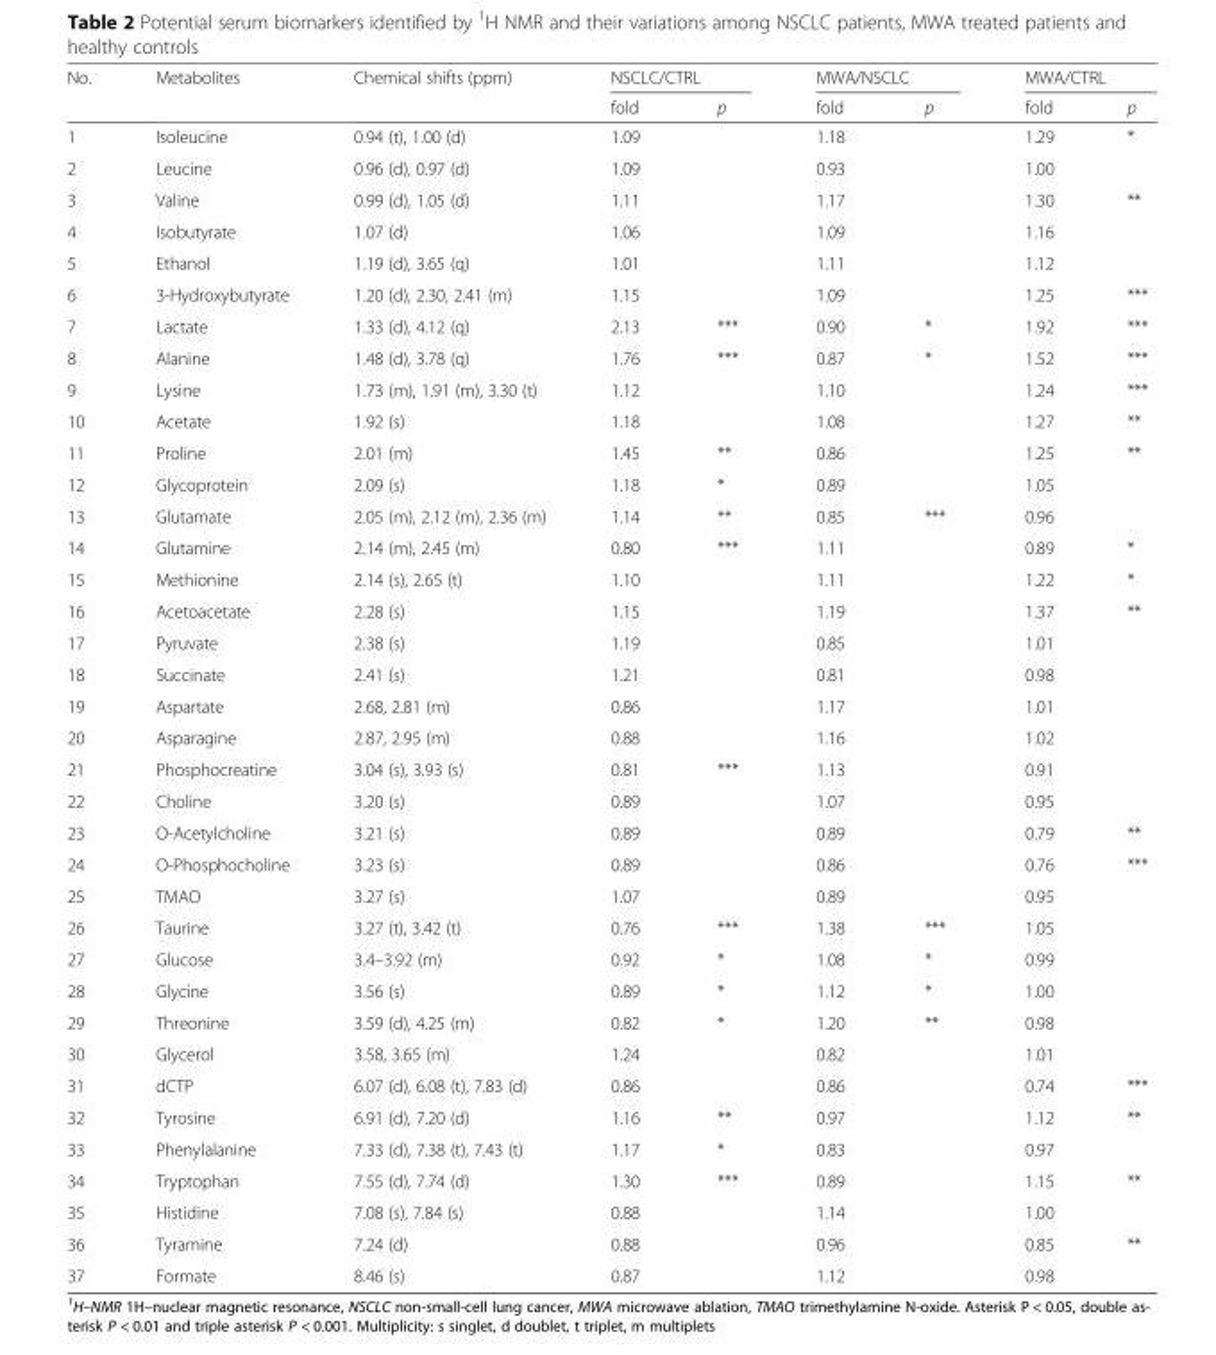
<table><thead><tr><td rowspan="2">No.</td><td rowspan="2">Metabolites</td><td rowspan="2">Chemical shifts (ppm)</td><td colspan="2">NSCLC/CTRL</td><td colspan="2">MWA/NSCLC</td><td colspan="2">MWA/CTRL</td></tr><tr><td>fold</td><td>p</td><td>fold</td><td>p</td><td>fold</td><td>p</td></tr></thead><tbody><tr><td>1</td><td>Isoleucine</td><td>0.94 (t), 1.00 (d)</td><td>1.09</td><td></td><td>1.18</td><td></td><td>1.29</td><td>*</td></tr><tr><td>2</td><td>Leucine</td><td>0.96 (d), 0.97 (d)</td><td>1.09</td><td></td><td>0.93</td><td></td><td>1.00</td><td></td></tr><tr><td>3</td><td>Valine</td><td>0.99 (d), 1.05 (d)</td><td>1.11</td><td></td><td>1.17</td><td></td><td>1.30</td><td>**</td></tr><tr><td>4</td><td>Isobutyrate</td><td>1.07 (d)</td><td>1.06</td><td></td><td>1.09</td><td></td><td>1.16</td><td></td></tr><tr><td>5</td><td>Ethanol</td><td>1.19 (d), 3.65 (q)</td><td>1.01</td><td></td><td>1.11</td><td></td><td>1.12</td><td></td></tr><tr><td>6</td><td>3-Hydroxybutyrate</td><td>1.20 (d), 2.30, 2.41 (m)</td><td>1.15</td><td></td><td>1.09</td><td></td><td>1.25</td><td>***</td></tr><tr><td>7</td><td>Lactate</td><td>1.33 (d), 4.12 (q)</td><td>2.13</td><td>***</td><td>0.90</td><td>*</td><td>1.92</td><td>***</td></tr><tr><td>8</td><td>Alanine</td><td>1.48 (d), 3.78 (q)</td><td>1.76</td><td>***</td><td>0.87</td><td>*</td><td>1.52</td><td>***</td></tr><tr><td>9</td><td>Lysine</td><td>1.73 (m), 1.91 (m), 3.30 (t)</td><td>1.12</td><td></td><td>1.10</td><td></td><td>1.24</td><td>***</td></tr><tr><td>10</td><td>Acetate</td><td>1.92 (s)</td><td>1.18</td><td></td><td>1.08</td><td></td><td>1.27</td><td>**</td></tr><tr><td>11</td><td>Proline</td><td>2.01 (m)</td><td>1.45</td><td>**</td><td>0.86</td><td></td><td>1.25</td><td>**</td></tr><tr><td>12</td><td>Glycoprotein</td><td>2.09 (s)</td><td>1.18</td><td>*</td><td>0.89</td><td></td><td>1.05</td><td></td></tr><tr><td>13</td><td>Glutamate</td><td>2.05 (m), 2.12 (m), 2.36 (m)</td><td>1.14</td><td>**</td><td>0.85</td><td>***</td><td>0.96</td><td></td></tr><tr><td>14</td><td>Glutamine</td><td>2.14 (m), 2.45 (m)</td><td>0.80</td><td>***</td><td>1.11</td><td></td><td>0.89</td><td>*</td></tr><tr><td>15</td><td>Methionine</td><td>2.14 (s), 2.65 (t)</td><td>1.10</td><td></td><td>1.11</td><td></td><td>1.22</td><td>*</td></tr><tr><td>16</td><td>Acetoacetate</td><td>2.28 (s)</td><td>1.15</td><td></td><td>1.19</td><td></td><td>1.37</td><td>**</td></tr><tr><td>17</td><td>Pyruvate</td><td>2.38 (s)</td><td>1.19</td><td></td><td>0.85</td><td></td><td>1.01</td><td></td></tr><tr><td>18</td><td>Succinate</td><td>2.41 (s)</td><td>1.21</td><td></td><td>0.81</td><td></td><td>0.98</td><td></td></tr><tr><td>19</td><td>Aspartate</td><td>2.68, 2.81 (m)</td><td>0.86</td><td></td><td>1.17</td><td></td><td>1.01</td><td></td></tr><tr><td>20</td><td>Asparagine</td><td>2.87, 2.95 (m)</td><td>0.88</td><td></td><td>1.16</td><td></td><td>1.02</td><td></td></tr><tr><td>21</td><td>Phosphocreatine</td><td>3.04 (s), 3.93 (s)</td><td>0.81</td><td>***</td><td>1.13</td><td></td><td>0.91</td><td></td></tr><tr><td>22</td><td>Choline</td><td>3.20 (s)</td><td>0.89</td><td></td><td>1.07</td><td></td><td>0.95</td><td></td></tr><tr><td>23</td><td>O-Acetylcholine</td><td>3.21 (s)</td><td>0.89</td><td></td><td>0.89</td><td></td><td>0.79</td><td>**</td></tr><tr><td>24</td><td>O-Phosphocholine</td><td>3.23 (s)</td><td>0.89</td><td></td><td>0.86</td><td></td><td>0.76</td><td>***</td></tr><tr><td>25</td><td>TMAO</td><td>3.27 (s)</td><td>1.07</td><td></td><td>0.89</td><td></td><td>0.95</td><td></td></tr><tr><td>26</td><td>Taurine</td><td>3.27 (t), 3.42 (t)</td><td>0.76</td><td>***</td><td>1.38</td><td>***</td><td>1.05</td><td></td></tr><tr><td>27</td><td>Glucose</td><td>3.4–3.92 (m)</td><td>0.92</td><td>*</td><td>1.08</td><td>*</td><td>0.99</td><td></td></tr><tr><td>28</td><td>Glycine</td><td>3.56 (s)</td><td>0.89</td><td>*</td><td>1.12</td><td>*</td><td>1.00</td><td></td></tr><tr><td>29</td><td>Threonine</td><td>3.59 (d), 4.25 (m)</td><td>0.82</td><td>*</td><td>1.20</td><td>**</td><td>0.98</td><td></td></tr><tr><td>30</td><td>Glycerol</td><td>3.58, 3.65 (m)</td><td>1.24</td><td></td><td>0.82</td><td></td><td>1.01</td><td></td></tr><tr><td>31</td><td>dCTP</td><td>6.07 (d), 6.08 (t), 7.83 (d)</td><td>0.86</td><td></td><td>0.86</td><td></td><td>0.74</td><td>***</td></tr><tr><td>32</td><td>Tyrosine</td><td>6.91 (d), 7.20 (d)</td><td>1.16</td><td>**</td><td>0.97</td><td></td><td>1.12</td><td>**</td></tr><tr><td>33</td><td>Phenylalanine</td><td>7.33 (d), 7.38 (t), 7.43 (t)</td><td>1.17</td><td>*</td><td>0.83</td><td></td><td>0.97</td><td></td></tr><tr><td>34</td><td>Tryptophan</td><td>7.55 (d), 7.74 (d)</td><td>1.30</td><td>***</td><td>0.89</td><td></td><td>1.15</td><td>**</td></tr><tr><td>35</td><td>Histidine</td><td>7.08 (s), 7.84 (s)</td><td>0.88</td><td></td><td>1.14</td><td></td><td>1.00</td><td></td></tr><tr><td>36</td><td>Tyramine</td><td>7.24 (d)</td><td>0.88</td><td></td><td>0.96</td><td></td><td>0.85</td><td>**</td></tr><tr><td>37</td><td>Formate</td><td>8.46 (s)</td><td>0.87</td><td></td><td>1.12</td><td></td><td>0.98</td><td></td></tr></tbody></table>